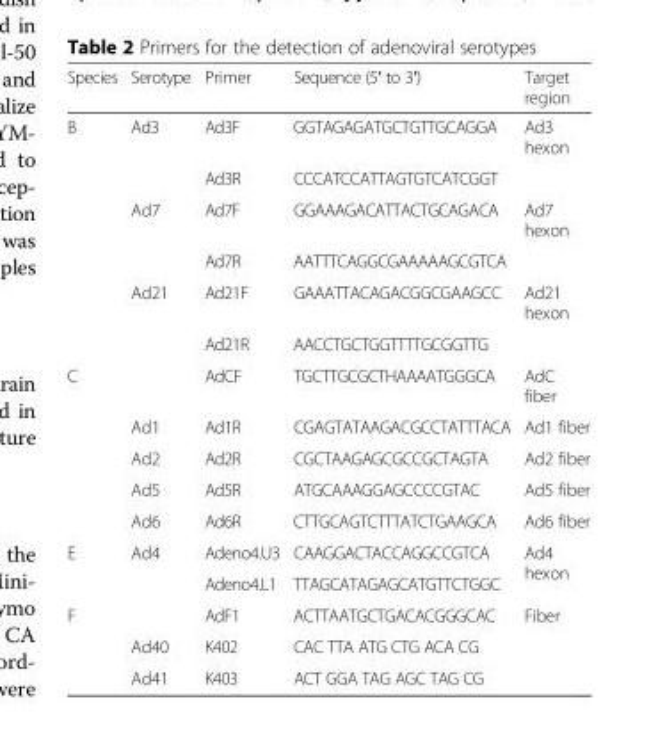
<table><thead><tr><td>Species</td><td>Serotype</td><td>Primer</td><td>Sequence (5′ to 3′)</td><td>Target region</td></tr></thead><tbody><tr><td rowspan="6">B</td><td>Ad3</td><td>Ad3F</td><td>GGTAGAGATGCTGTTGCAGGA</td><td>Ad3 hexon</td></tr><tr><td></td><td>Ad3R</td><td>CCCATCCATTAGTGTCATCGGT</td><td></td></tr><tr><td>Ad7</td><td>Ad7F</td><td>GGAAAGACATTACTGCAGACA</td><td>Ad7 hexon</td></tr><tr><td></td><td>Ad7R</td><td>AATTTCAGGCGAAAAAGCGTCA</td><td></td></tr><tr><td>Ad21</td><td>Ad21F</td><td>GAAATTACAGACGGCGAAGCC</td><td>Ad21 hexon</td></tr><tr><td></td><td>Ad21R</td><td>AACCTGCTGGTTTTGCGGTTG</td><td></td></tr><tr><td rowspan="5">C</td><td></td><td>AdCF</td><td>TGCTTGCGCTHAAAATGGGCA</td><td>AdC fiber</td></tr><tr><td>Ad1</td><td>Ad1R</td><td>CGAGTATAAGACGCCTATTTACA</td><td>Ad1 fiber</td></tr><tr><td>Ad2</td><td>Ad2R</td><td>CGCTAAGAGCGCCGCTAGTA</td><td>Ad2 fiber</td></tr><tr><td>Ad5</td><td>Ad5R</td><td>ATGCAAAGGAGCCCCGTAC</td><td>Ad5 fiber</td></tr><tr><td>Ad6</td><td>Ad6R</td><td>CTTGCAGTCTTTATCTGAAGCA</td><td>Ad6 fiber</td></tr><tr><td rowspan="2">E</td><td rowspan="2">Ad4</td><td>Adeno4.U3</td><td>CAAGGACTACCAGGCCGTCA</td><td rowspan="2">Ad4 hexon</td></tr><tr><td>Adeno4.L1</td><td>TTAGCATAGAGCATGTTCTGGC</td></tr><tr><td rowspan="3">F</td><td></td><td>AdF1</td><td>ACTTAATGCTGACACGGGCAC</td><td>Fiber</td></tr><tr><td>Ad40</td><td>K402</td><td>CAC TTA ATG CTG ACA CG</td><td rowspan="2"></td></tr><tr><td>Ad41</td><td>K403</td><td>ACT GGA TAG AGC TAG CG</td></tr></tbody></table>